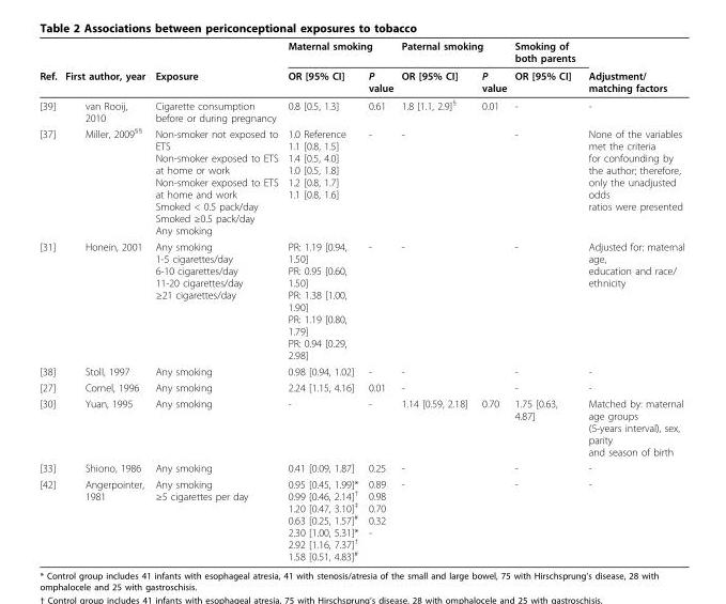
<table><thead><tr><td rowspan="2">Ref.</td><td rowspan="2">First author, year</td><td rowspan="2">Exposure</td><td colspan="2">Maternal smoking</td><td colspan="2">Paternal smoking</td><td rowspan="2">Smoking of both parents OR [95% CI]</td><td rowspan="2">Adjustment/ matching factors</td></tr><tr><td>OR [95% CI]</td><td>P value</td><td>OR [95% CI]</td><td>P value</td></tr></thead><tbody><tr><td>[39]</td><td>van Rooij, 2010</td><td>Cigarette consumption before or during pregnancy</td><td>0.8 [0.5, 1.3]</td><td>0.61</td><td>1.8 [1.1, 2.9]<sup>§</sup></td><td>0.01</td><td>-</td><td>-</td></tr><tr><td>[37]</td><td>Miller, 2009<sup>§§</sup></td><td>Non-smoker not exposed to ETS Non-smoker exposed to ETS at home or work Non-smoker exposed to ETS at home and work Smoked &lt; 0.5 pack/day Smoked ≥0.5 pack/day Any smoking</td><td>1.0 Reference 1.1 [0.8, 1.5] 1.4 [0.5, 4.0] 1.0 [0.5, 1.8] 1.2 [0.8, 1.7] 1.1 [0.8, 1.6]</td><td>-</td><td>-</td><td></td><td>-</td><td>None of the variables met the criteria for confounding by the author; therefore, only the unadjusted odds ratios were presented</td></tr><tr><td>[31]</td><td>Honein, 2001</td><td>Any smoking 1-5 cigarettes/day 6-10 cigarettes/day 11-20 cigarettes/day ≥21 cigarettes/day</td><td>PR: 1.19 [0.94, 1.50] PR: 0.95 [0.60, 1.50] PR: 1.38 [1.00, 1.90] PR: 1.19 [0.80, 1.79] PR: 0.94 [0.29, 2.98]</td><td>-</td><td>-</td><td></td><td>-</td><td>Adjusted for: maternal age, education and race/ ethnicity</td></tr><tr><td>[38]</td><td>Stoll, 1997</td><td>Any smoking</td><td>0.98 [0.94, 1.02]</td><td>-</td><td>-</td><td></td><td>-</td><td>-</td></tr><tr><td>[27]</td><td>Cornel, 1996</td><td>Any smoking</td><td>2.24 [1.15, 4.16]</td><td>0.01</td><td>-</td><td></td><td>-</td><td>-</td></tr><tr><td>[30]</td><td>Yuan, 1995</td><td>Any smoking</td><td>-</td><td>-</td><td>1.14 [0.59, 2.18]</td><td>0.70</td><td>1.75 [0.63, 4.87]</td><td>Matched by: maternal age groups (5-years interval), sex, parity and season of birth</td></tr><tr><td>[33]</td><td>Shiono, 1986</td><td>Any smoking</td><td>0.41 [0.09, 1.87]</td><td>0.25</td><td>-</td><td></td><td>-</td><td>-</td></tr><tr><td>[42]</td><td>Angerpointer, 1981</td><td>Any smoking ≥5 cigarettes per day</td><td>0.95 [0.45, 1.99]* 0.99 [0.46, 2.14]<sup>†</sup> 1.20 [0.47, 3.10]<sup>‡</sup> 0.63 [0.25, 1.57]<sup>#</sup> 2.30 [1.00, 5.31]* 2.92 [1.16, 7.37]<sup>†</sup> 1.58 [0.51, 4.83]<sup>#</sup></td><td>0.89 0.98 0.70 0.32 -</td><td>-</td><td></td><td>-</td><td>-</td></tr></tbody></table>